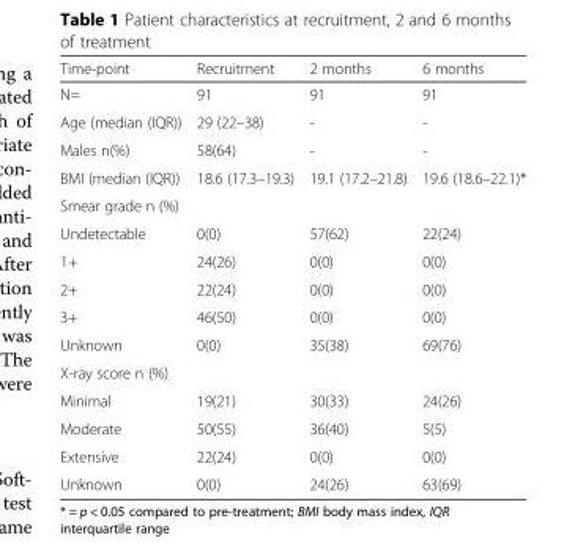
<table><thead><tr><td>Time-point</td><td>Recruitment</td><td>2 months</td><td>6 months</td></tr></thead><tbody><tr><td>N=</td><td>91</td><td>91</td><td>91</td></tr><tr><td>Age (median (IQR))</td><td>29 (22–38)</td><td>-</td><td>-</td></tr><tr><td>Males n(%)</td><td>58(64)</td><td>-</td><td>-</td></tr><tr><td>BMI (median (IQR))</td><td>18.6 (17.3–19.3)</td><td>19.1 (17.2–21.8)</td><td>19.6 (18.6–22.1)*</td></tr><tr><td colspan="4">Smear grade n (%)</td></tr><tr><td>Undetectable</td><td>0(0)</td><td>57(62)</td><td>22(24)</td></tr><tr><td>1+</td><td>24(26)</td><td>0(0)</td><td>0(0)</td></tr><tr><td>2+</td><td>22(24)</td><td>0(0)</td><td>0(0)</td></tr><tr><td>3+</td><td>46(50)</td><td>0(0)</td><td>0(0)</td></tr><tr><td>Unknown</td><td>0(0)</td><td>35(38)</td><td>69(76)</td></tr><tr><td colspan="4">X-ray score n (%)</td></tr><tr><td>Minimal</td><td>19(21)</td><td>30(33)</td><td>24(26)</td></tr><tr><td>Moderate</td><td>50(55)</td><td>36(40)</td><td>5(5)</td></tr><tr><td>Extensive</td><td>22(24)</td><td>0(0)</td><td>0(0)</td></tr><tr><td>Unknown</td><td>0(0)</td><td>24(26)</td><td>63(69)</td></tr></tbody></table>